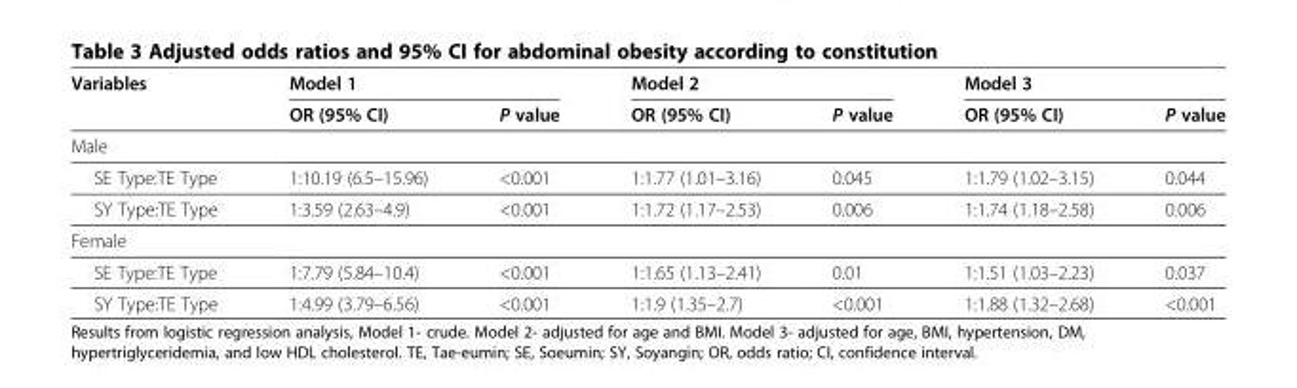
<table><thead><tr><td rowspan="2">Variables</td><td colspan="2">Model 1</td><td colspan="2">Model 2</td><td colspan="2">Model 3</td></tr><tr><td>OR (95% CI)</td><td>P value</td><td>OR (95% CI)</td><td>P value</td><td>OR (95% CI)</td><td>P value</td></tr></thead><tbody><tr><td colspan="7">Male</td></tr><tr><td>SE Type:TE Type</td><td>1:10.19 (6.5–15.96)</td><td>&lt;0.001</td><td>1:1.77 (1.01–3.16)</td><td>0.045</td><td>1:1.79 (1.02–3.15)</td><td>0.044</td></tr><tr><td>SY Type:TE Type</td><td>1:3.59 (2.63–4.9)</td><td>&lt;0.001</td><td>1:1.72 (1.17–2.53)</td><td>0.006</td><td>1:1.74 (1.18–2.58)</td><td>0.006</td></tr><tr><td colspan="7">Female</td></tr><tr><td>SE Type:TE Type</td><td>1:7.79 (5.84–10.4)</td><td>&lt;0.001</td><td>1:1.65 (1.13–2.41)</td><td>0.01</td><td>1:1.51 (1.03–2.23)</td><td>0.037</td></tr><tr><td>SY Type:TE Type</td><td>1:4.99 (3.79–6.56)</td><td>&lt;0.001</td><td>1:1.9 (1.35–2.7)</td><td>&lt;0.001</td><td>1:1.88 (1.32–2.68)</td><td>&lt;0.001</td></tr></tbody></table>